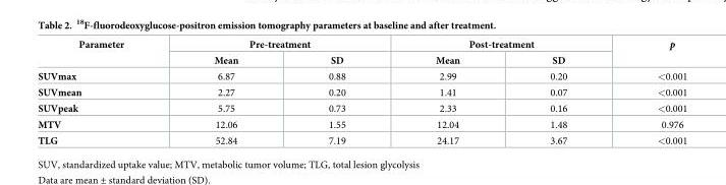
<table><thead><tr><td rowspan="2">Parameter</td><td colspan="2">Pre-treatment</td><td colspan="2">Post-treatment</td><td rowspan="2">p</td></tr><tr><td>Mean</td><td>SD</td><td>Mean</td><td>SD</td></tr></thead><tbody><tr><td>SUVmax</td><td>6.87</td><td>0.88</td><td>2.99</td><td>0.20</td><td>&lt;0.001</td></tr><tr><td>SUVmean</td><td>2.27</td><td>0.20</td><td>1.41</td><td>0.07</td><td>&lt;0.001</td></tr><tr><td>SUVpeak</td><td>5.75</td><td>0.73</td><td>2.33</td><td>0.16</td><td>&lt;0.001</td></tr><tr><td>MTV</td><td>12.06</td><td>1.55</td><td>12.04</td><td>1.48</td><td>0.976</td></tr><tr><td>TLG</td><td>52.84</td><td>7.19</td><td>24.17</td><td>3.67</td><td>&lt;0.001</td></tr></tbody></table>